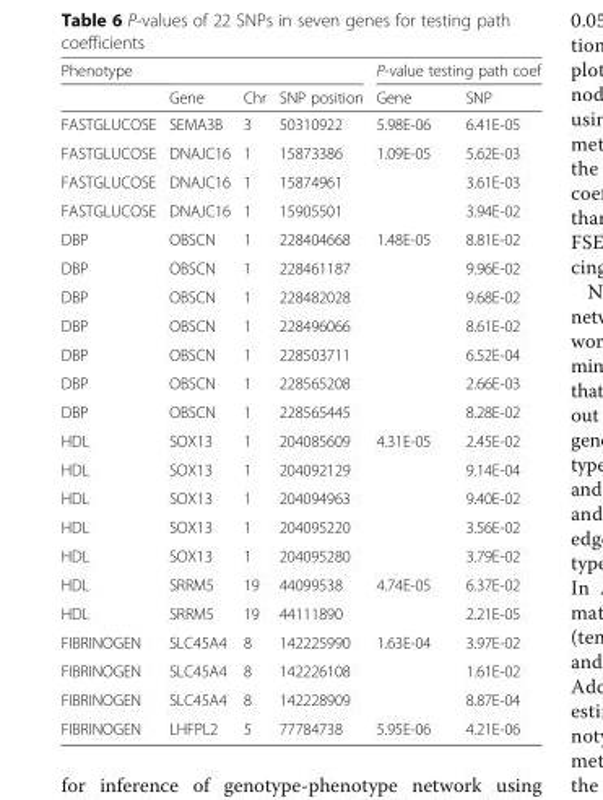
<table><thead><tr><td rowspan="2">Phenotype</td><td rowspan="2">Gene</td><td rowspan="2">Chr</td><td rowspan="2">SNP position</td><td colspan="2">P-value testing path coef</td></tr><tr><td>Gene</td><td>SNP</td></tr></thead><tbody><tr><td>FASTGLUCOSE</td><td>SEMA3B</td><td>3</td><td>50310922</td><td>5.98E-06</td><td>6.41E-05</td></tr><tr><td>FASTGLUCOSE</td><td>DNAJC16</td><td>1</td><td>15873386</td><td>1.09E-05</td><td>5.62E-03</td></tr><tr><td>FASTGLUCOSE</td><td>DNAJC16</td><td>1</td><td>15874961</td><td></td><td>3.61E-03</td></tr><tr><td>FASTGLUCOSE</td><td>DNAJC16</td><td>1</td><td>15905501</td><td></td><td>3.94E-02</td></tr><tr><td>DBP</td><td>OBSCN</td><td>1</td><td>228404668</td><td>1.48E-05</td><td>8.81E-02</td></tr><tr><td>DBP</td><td>OBSCN</td><td>1</td><td>228461187</td><td></td><td>9.96E-02</td></tr><tr><td>DBP</td><td>OBSCN</td><td>1</td><td>228482028</td><td></td><td>9.68E-02</td></tr><tr><td>DBP</td><td>OBSCN</td><td>1</td><td>228496066</td><td></td><td>8.61E-02</td></tr><tr><td>DBP</td><td>OBSCN</td><td>1</td><td>228503711</td><td></td><td>6.52E-04</td></tr><tr><td>DBP</td><td>OBSCN</td><td>1</td><td>228565208</td><td></td><td>2.66E-03</td></tr><tr><td>DBP</td><td>OBSCN</td><td>1</td><td>228565445</td><td></td><td>8.28E-02</td></tr><tr><td>HDL</td><td>SOX13</td><td>1</td><td>204085609</td><td>4.31E-05</td><td>2.45E-02</td></tr><tr><td>HDL</td><td>SOX13</td><td>1</td><td>204092129</td><td></td><td>9.14E-04</td></tr><tr><td>HDL</td><td>SOX13</td><td>1</td><td>204094963</td><td></td><td>9.40E-02</td></tr><tr><td>HDL</td><td>SOX13</td><td>1</td><td>204095220</td><td></td><td>3.56E-02</td></tr><tr><td>HDL</td><td>SOX13</td><td>1</td><td>204095280</td><td></td><td>3.79E-02</td></tr><tr><td>HDL</td><td>SRRM5</td><td>19</td><td>44099538</td><td>4.74E-05</td><td>6.37E-02</td></tr><tr><td>HDL</td><td>SRRM5</td><td>19</td><td>44111890</td><td></td><td>2.21E-05</td></tr><tr><td>FIBRINOGEN</td><td>SLC45A4</td><td>8</td><td>142225990</td><td>1.63E-04</td><td>3.97E-02</td></tr><tr><td>FIBRINOGEN</td><td>SLC45A4</td><td>8</td><td>142226108</td><td></td><td>1.61E-02</td></tr><tr><td>FIBRINOGEN</td><td>SLC45A4</td><td>8</td><td>142228909</td><td></td><td>8.87E-04</td></tr><tr><td>FIBRINOGEN</td><td>LHFPL2</td><td>5</td><td>77784738</td><td>5.95E-06</td><td>4.21E-06</td></tr></tbody></table>